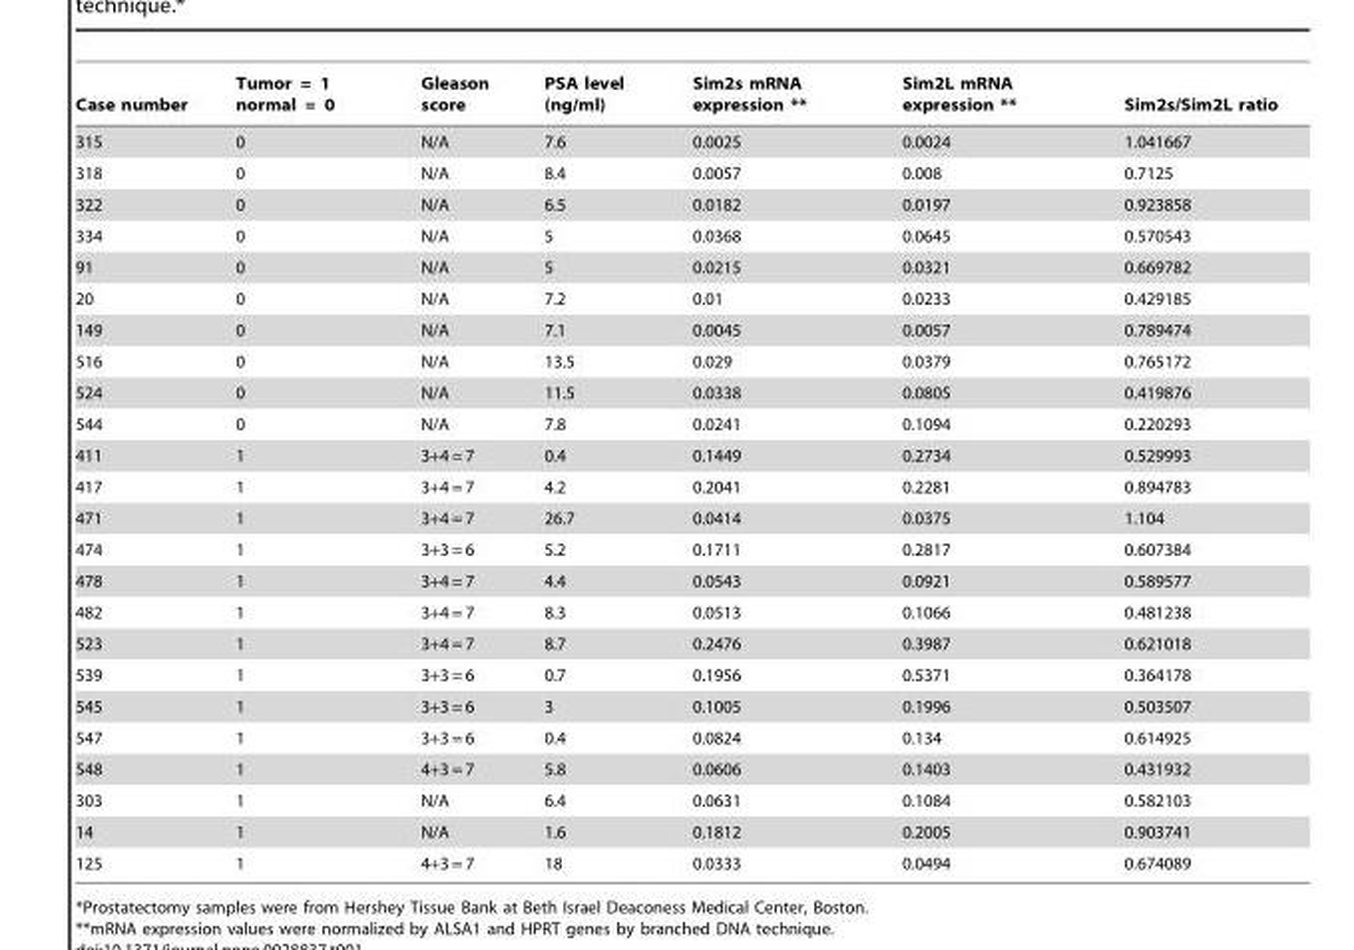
<table><thead><tr><td>Case number</td><td>Tumor = 1 normal = 0</td><td>Gleason score</td><td>PSA level (ng/ml)</td><td>Sim2s mRNA expression **</td><td>Sim2L mRNA expression **</td><td>Sim2s/Sim2L ratio</td></tr></thead><tbody><tr><td>315</td><td>0</td><td>N/A</td><td>7.6</td><td>0.0025</td><td>0.0024</td><td>1.041667</td></tr><tr><td>318</td><td>0</td><td>N/A</td><td>8.4</td><td>0.0057</td><td>0.008</td><td>0.7125</td></tr><tr><td>322</td><td>0</td><td>N/A</td><td>6.5</td><td>0.0182</td><td>0.0197</td><td>0.923858</td></tr><tr><td>334</td><td>0</td><td>N/A</td><td>5</td><td>0.0368</td><td>0.0645</td><td>0.570543</td></tr><tr><td>91</td><td>0</td><td>N/A</td><td>5</td><td>0.0215</td><td>0.0321</td><td>0.669782</td></tr><tr><td>20</td><td>0</td><td>N/A</td><td>7.2</td><td>0.01</td><td>0.0233</td><td>0.429185</td></tr><tr><td>149</td><td>0</td><td>N/A</td><td>7.1</td><td>0.0045</td><td>0.0057</td><td>0.789474</td></tr><tr><td>516</td><td>0</td><td>N/A</td><td>13.5</td><td>0.029</td><td>0.0379</td><td>0.765172</td></tr><tr><td>524</td><td>0</td><td>N/A</td><td>11.5</td><td>0.0338</td><td>0.0805</td><td>0.419876</td></tr><tr><td>544</td><td>0</td><td>N/A</td><td>7.8</td><td>0.0241</td><td>0.1094</td><td>0.220293</td></tr><tr><td>411</td><td>1</td><td>3+4 = 7</td><td>0.4</td><td>0.1449</td><td>0.2734</td><td>0.529993</td></tr><tr><td>417</td><td>1</td><td>3+4 = 7</td><td>4.2</td><td>0.2041</td><td>0.2281</td><td>0.894783</td></tr><tr><td>471</td><td>1</td><td>3+4 = 7</td><td>26.7</td><td>0.0414</td><td>0.0375</td><td>1.104</td></tr><tr><td>474</td><td>1</td><td>3+3 = 6</td><td>5.2</td><td>0.1711</td><td>0.2817</td><td>0.607384</td></tr><tr><td>478</td><td>1</td><td>3+4 = 7</td><td>4.4</td><td>0.0543</td><td>0.0921</td><td>0.589577</td></tr><tr><td>482</td><td>1</td><td>3+4 = 7</td><td>8.3</td><td>0.0513</td><td>0.1066</td><td>0.481238</td></tr><tr><td>523</td><td>1</td><td>3+4 = 7</td><td>8.7</td><td>0.2476</td><td>0.3987</td><td>0.621018</td></tr><tr><td>539</td><td>1</td><td>3+3 = 6</td><td>0.7</td><td>0.1956</td><td>0.5371</td><td>0.364178</td></tr><tr><td>545</td><td>1</td><td>3+3 = 6</td><td>3</td><td>0.1005</td><td>0.1996</td><td>0.503507</td></tr><tr><td>547</td><td>1</td><td>3+3 = 6</td><td>0.4</td><td>0.0824</td><td>0.134</td><td>0.614925</td></tr><tr><td>548</td><td>1</td><td>4+3 = 7</td><td>5.8</td><td>0.0606</td><td>0.1403</td><td>0.431932</td></tr><tr><td>303</td><td>1</td><td>N/A</td><td>6.4</td><td>0.0631</td><td>0.1084</td><td>0.582103</td></tr><tr><td>14</td><td>1</td><td>N/A</td><td>1.6</td><td>0.1812</td><td>0.2005</td><td>0.903741</td></tr><tr><td>125</td><td>1</td><td>4+3 = 7</td><td>18</td><td>0.0333</td><td>0.0494</td><td>0.674089</td></tr></tbody></table>